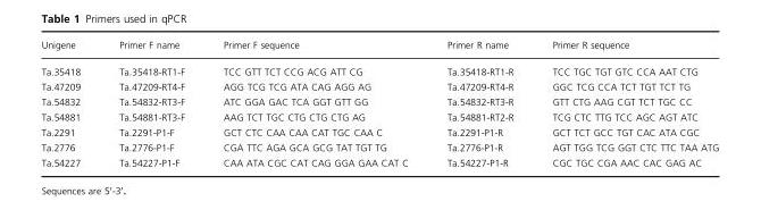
<table><thead><tr><td>Unigene</td><td>Primer F name</td><td>Primer F sequence</td><td>Primer R name</td><td>Primer R sequence</td></tr></thead><tbody><tr><td>Ta.35418</td><td>Ta.35418-RT1-F</td><td>TCC GTT TCT CCG ACG ATT CG</td><td>Ta.35418-RT1-R</td><td>TCC TGC TGT GTC CCA AAT CTG</td></tr><tr><td>Ta.47209</td><td>Ta.47209-RT4-F</td><td>AGG TCG TCG ATA CAG AGG AG</td><td>Ta.47209-RT4-R</td><td>GGC TCG CCA TCT TGT TCT TG</td></tr><tr><td>Ta.54832</td><td>Ta.54832-RT3-F</td><td>ATC GGA GAC TCA GGT GTT GG</td><td>Ta.54832-RT3-R</td><td>GTT CTG AAG CGT TCT TGC CC</td></tr><tr><td>Ta.54881</td><td>Ta.54881-RT3-F</td><td>AAG TCT TGC CTG CTG CTG AG</td><td>Ta.54881-RT2-R</td><td>TCG CTC TTG TCC AGC AGT ATC</td></tr><tr><td>Ta.2291</td><td>Ta.2291-P1-F</td><td>GCT CTC CAA CAA CAT TGC CAA C</td><td>Ta.2291-P1-R</td><td>GCT TCT GCC TGT CAC ATA CGC</td></tr><tr><td>Ta.2776</td><td>Ta.2776-P1-F</td><td>CGA TTC AGA GCA GCG TAT TGT TG</td><td>Ta.2776-P1-R</td><td>AGT TGG TCG GGT CTC TTC TAA ATG</td></tr><tr><td>Ta.54227</td><td>Ta.54227-P1-F</td><td>CAA ATA CGC CAT CAG GGA GAA CAT C</td><td>Ta.54227-P1-R</td><td>CGC TGC CGA AAC CAC GAG AC</td></tr></tbody></table>